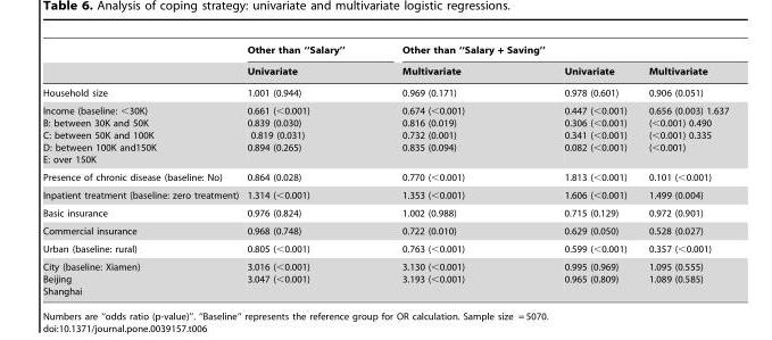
<table><thead><tr><td rowspan="2"></td><td rowspan="2">Other than ‘‘Salary’’ Univariate</td><td colspan="3">Other than ‘‘Salary + Saving’’</td></tr><tr><td>Multivariate</td><td>Univariate</td><td>Multivariate</td></tr></thead><tbody><tr><td>Household size</td><td>1.001 (0.944)</td><td>0.969 (0.171)</td><td>0.978 (0.601)</td><td>0.906 (0.051)</td></tr><tr><td>Income (baseline: &lt;30K) B: between 30K and 50K C: between 50K and 100K D: between 100K and150K E: over 150K</td><td>0.661 (&lt;0.001) 0.839 (0.030) 0.819 (0.031) 0.894 (0.265)</td><td>0.674 (&lt;0.001) 0.816 (0.019) 0.732 (0.001) 0.835 (0.094)</td><td>0.447 (&lt;0.001) 0.306 (&lt;0.001) 0.341 (&lt;0.001) 0.082 (&lt;0.001)</td><td>0.656 (0.003) 1.637 (&lt;0.001) 0.490 (&lt;0.001) 0.335 (&lt;0.001)</td></tr><tr><td>Presence of chronic disease (baseline: No)</td><td>0.864 (0.028)</td><td>0.770 (&lt;0.001)</td><td>1.813 (&lt;0.001)</td><td>0.101 (&lt;0.001)</td></tr><tr><td>Inpatient treatment (baseline: zero treatment)</td><td>1.314 (&lt;0.001)</td><td>1.353 (&lt;0.001)</td><td>1.606 (&lt;0.001)</td><td>1.499 (0.004)</td></tr><tr><td>Basic insurance</td><td>0.976 (0.824)</td><td>1.002 (0.988)</td><td>0.715 (0.129)</td><td>0.972 (0.901)</td></tr><tr><td>Commercial insurance</td><td>0.968 (0.748)</td><td>0.722 (0.010)</td><td>0.629 (0.050)</td><td>0.528 (0.027)</td></tr><tr><td>Urban (baseline: rural)</td><td>0.805 (&lt;0.001)</td><td>0.763 (&lt;0.001)</td><td>0.599 (&lt;0.001)</td><td>0.357 (&lt;0.001)</td></tr><tr><td>City (baseline: Xiamen) Beijing Shanghai</td><td>3.016 (&lt;0.001) 3.047 (&lt;0.001)</td><td>3.130 (&lt;0.001) 3.193 (&lt;0.001)</td><td>0.995 (0.969) 0.965 (0.809)</td><td>1.095 (0.555) 1.089 (0.585)</td></tr></tbody></table>